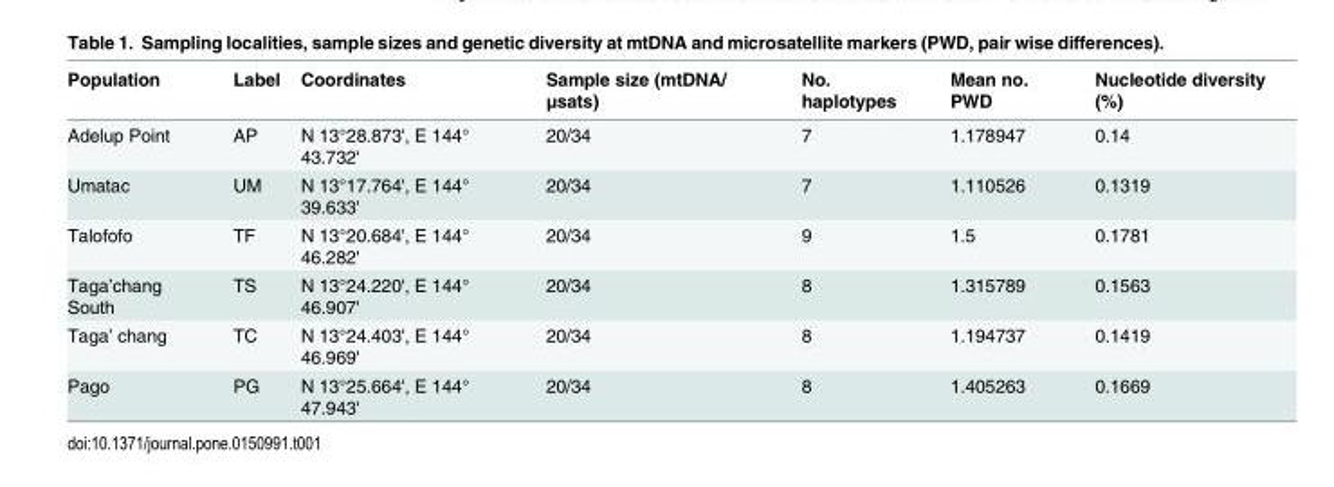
<table><thead><tr><td>Population</td><td>Label</td><td>Coordinates</td><td>Sample size (mtDNA/ μsats)</td><td>No. haplotypes</td><td>Mean no. PWD</td><td>Nucleotide diversity (%)</td></tr></thead><tbody><tr><td>Adelup Point</td><td>AP</td><td>N 13°28.873&#x27;, E 144° 43.732&#x27;</td><td>20/34</td><td>7</td><td>1.178947</td><td>0.14</td></tr><tr><td>Umatac</td><td>UM</td><td>N 13°17.764&#x27;, E 144° 39.633&#x27;</td><td>20/34</td><td>7</td><td>1.110526</td><td>0.1319</td></tr><tr><td>Talofofo</td><td>TF</td><td>N 13°20.684&#x27;, E 144° 46.282&#x27;</td><td>20/34</td><td>9</td><td>1.5</td><td>0.1781</td></tr><tr><td>Taga’chang South</td><td>TS</td><td>N 13°24.220&#x27;, E 144° 46.907&#x27;</td><td>20/34</td><td>8</td><td>1.315789</td><td>0.1563</td></tr><tr><td>Taga’ chang</td><td>TC</td><td>N 13°24.403&#x27;, E 144° 46.969&#x27;</td><td>20/34</td><td>8</td><td>1.194737</td><td>0.1419</td></tr><tr><td>Pago</td><td>PG</td><td>N 13°25.664&#x27;, E 144° 47.943&#x27;</td><td>20/34</td><td>8</td><td>1.405263</td><td>0.1669</td></tr></tbody></table>